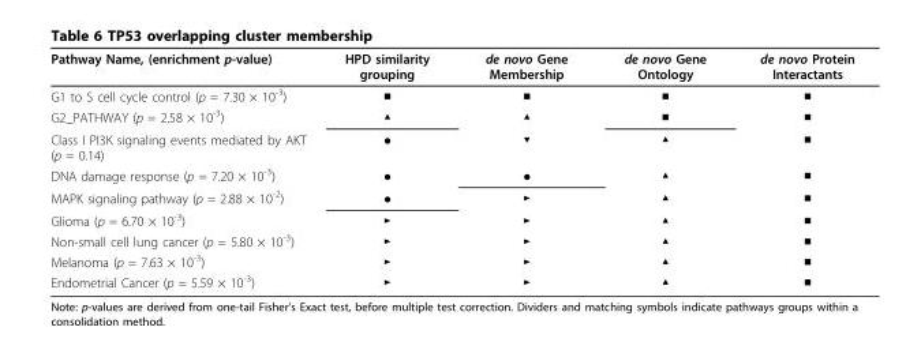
<table><thead><tr><td>Pathway Name, (enrichment p-value)</td><td>HPD similarity grouping</td><td>de novo Gene Membership</td><td>de novo Gene Ontology</td><td>de novo Protein Interactants</td></tr></thead><tbody><tr><td>G1 to S cell cycle control (p = 7.30 × 10<sup>-3</sup>)</td><td>■</td><td>■</td><td>■</td><td>■</td></tr><tr><td>G2_PATHWAY (p = 2.58 × 10<sup>-3</sup>)</td><td>▲</td><td>▲</td><td>■</td><td>■</td></tr><tr><td>Class I PI3K signaling events mediated by AKT (p = 0.14)</td><td>●</td><td>▼</td><td>▲</td><td>■</td></tr><tr><td>DNA damage response (p = 7.20 × 10<sup>-3</sup>)</td><td>●</td><td>●</td><td>▲</td><td>■</td></tr><tr><td>MAPK signaling pathway (p = 2.88 × 10<sup>-2</sup>)</td><td>●</td><td>►</td><td>▲</td><td>■</td></tr><tr><td>Glioma (p = 6.70 × 10<sup>-3</sup>)</td><td>►</td><td>►</td><td>▲</td><td>■</td></tr><tr><td>Non-small cell lung cancer (p = 5.80 × 10<sup>-3</sup>)</td><td>►</td><td>►</td><td>▲</td><td>■</td></tr><tr><td>Melanoma (p = 7.63 × 10<sup>-3</sup>)</td><td>►</td><td>►</td><td>▲</td><td>■</td></tr><tr><td>Endometrial Cancer (p = 5.59 × 10<sup>-3</sup>)</td><td>►</td><td>►</td><td>▲</td><td>■</td></tr></tbody></table>